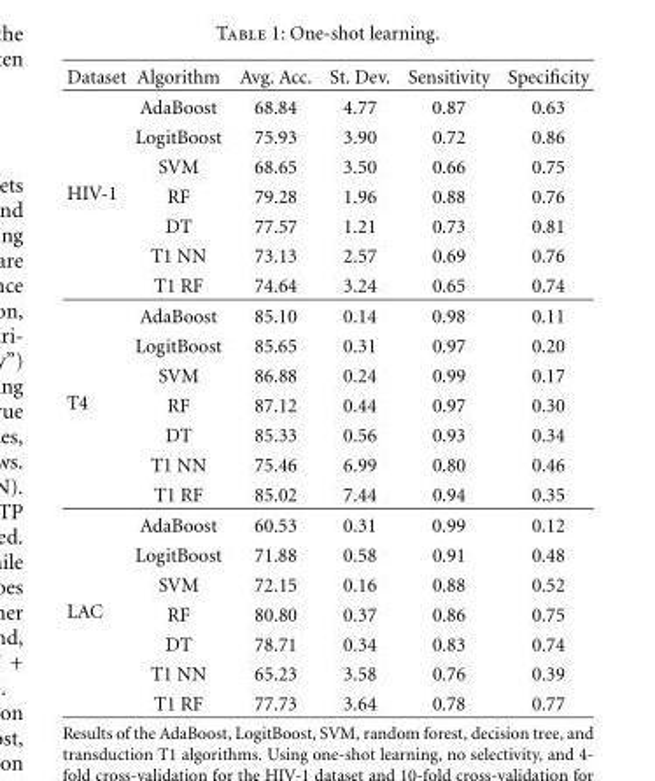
<table><thead><tr><td>Dataset</td><td>Algorithm</td><td>Avg. Acc.</td><td>St. Dev.</td><td>Sensitivity</td><td>Specificity</td></tr></thead><tbody><tr><td rowspan="7">HIV-1</td><td>AdaBoost</td><td>68.84</td><td>4.77</td><td>0.87</td><td>0.63</td></tr><tr><td>LogitBoost</td><td>75.93</td><td>3.90</td><td>0.72</td><td>0.86</td></tr><tr><td>SVM</td><td>68.65</td><td>3.50</td><td>0.66</td><td>0.75</td></tr><tr><td>RF</td><td>79.28</td><td>1.96</td><td>0.88</td><td>0.76</td></tr><tr><td>DT</td><td>77.57</td><td>1.21</td><td>0.73</td><td>0.81</td></tr><tr><td>T1 NN</td><td>73.13</td><td>2.57</td><td>0.69</td><td>0.76</td></tr><tr><td>T1 RF</td><td>74.64</td><td>3.24</td><td>0.65</td><td>0.74</td></tr><tr><td rowspan="7">T4</td><td>AdaBoost</td><td>85.10</td><td>0.14</td><td>0.98</td><td>0.11</td></tr><tr><td>LogitBoost</td><td>85.65</td><td>0.31</td><td>0.97</td><td>0.20</td></tr><tr><td>SVM</td><td>86.88</td><td>0.24</td><td>0.99</td><td>0.17</td></tr><tr><td>RF</td><td>87.12</td><td>0.44</td><td>0.97</td><td>0.30</td></tr><tr><td>DT</td><td>85.33</td><td>0.56</td><td>0.93</td><td>0.34</td></tr><tr><td>T1 NN</td><td>75.46</td><td>6.99</td><td>0.80</td><td>0.46</td></tr><tr><td>T1 RF</td><td>85.02</td><td>7.44</td><td>0.94</td><td>0.35</td></tr><tr><td rowspan="7">LAC</td><td>AdaBoost</td><td>60.53</td><td>0.31</td><td>0.99</td><td>0.12</td></tr><tr><td>LogitBoost</td><td>71.88</td><td>0.58</td><td>0.91</td><td>0.48</td></tr><tr><td>SVM</td><td>72.15</td><td>0.16</td><td>0.88</td><td>0.52</td></tr><tr><td>RF</td><td>80.80</td><td>0.37</td><td>0.86</td><td>0.75</td></tr><tr><td>DT</td><td>78.71</td><td>0.34</td><td>0.83</td><td>0.74</td></tr><tr><td>T1 NN</td><td>65.23</td><td>3.58</td><td>0.76</td><td>0.39</td></tr><tr><td>T1 RF</td><td>77.73</td><td>3.64</td><td>0.78</td><td>0.77</td></tr></tbody></table>